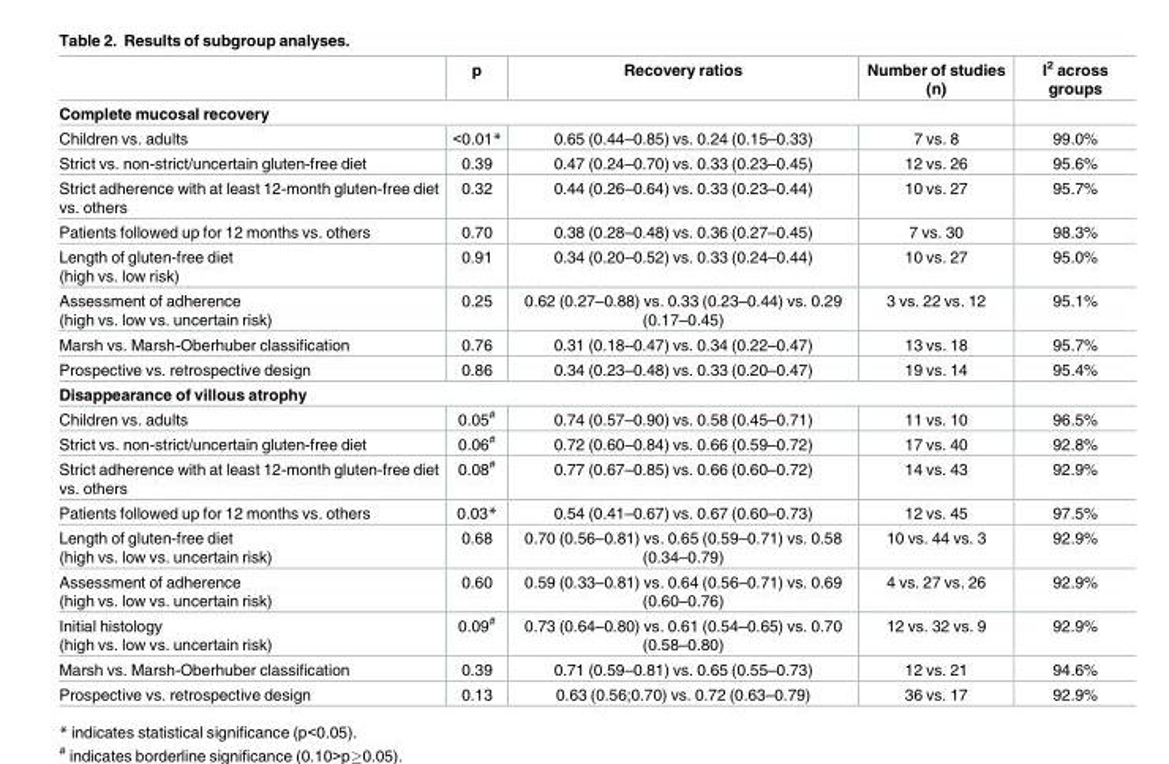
<table><thead><tr><td></td><td>p</td><td>Recovery ratios</td><td>Number of studies (n)</td><td rowspan="2">I<sup>2</sup> across groups</td></tr><tr><td colspan="4">Complete mucosal recovery</td></tr></thead><tbody><tr><td>Children vs. adults</td><td>&lt;0.01*</td><td>0.65 (0.44–0.85) vs. 0.24 (0.15–0.33)</td><td>7 vs. 8</td><td>99.0%</td></tr><tr><td>Strict vs. non-strict/uncertain gluten-free diet</td><td>0.39</td><td>0.47 (0.24–0.70) vs. 0.33 (0.23–0.45)</td><td>12 vs. 26</td><td>95.6%</td></tr><tr><td>Strict adherence with at least 12-month gluten-free diet vs. others</td><td>0.32</td><td>0.44 (0.26–0.64) vs. 0.33 (0.23–0.44)</td><td>10 vs. 27</td><td>95.7%</td></tr><tr><td>Patients followed up for 12 months vs. others</td><td>0.70</td><td>0.38 (0.28–0.48) vs. 0.36 (0.27–0.45)</td><td>7 vs. 30</td><td>98.3%</td></tr><tr><td>Length of gluten-free diet (high vs. low risk)</td><td>0.91</td><td>0.34 (0.20–0.52) vs. 0.33 (0.24–0.44)</td><td>10 vs. 27</td><td>95.0%</td></tr><tr><td>Assessment of adherence (high vs. low vs. uncertain risk)</td><td>0.25</td><td>0.62 (0.27–0.88) vs. 0.33 (0.23–0.44) vs. 0.29 (0.17–0.45)</td><td>3 vs. 22 vs. 12</td><td>95.1%</td></tr><tr><td>Marsh vs. Marsh-Oberhuber classification</td><td>0.76</td><td>0.31 (0.18–0.47) vs. 0.34 (0.22–0.47)</td><td>13 vs. 18</td><td>95.7%</td></tr><tr><td>Prospective vs. retrospective design</td><td>0.86</td><td>0.34 (0.23–0.48) vs. 0.33 (0.20–0.47)</td><td>19 vs. 14</td><td>95.4%</td></tr><tr><td colspan="5">Disappearance of villous atrophy</td></tr><tr><td>Children vs. adults</td><td>0.05<sup>#</sup></td><td>0.74 (0.57–0.90) vs. 0.58 (0.45–0.71)</td><td>11 vs. 10</td><td>96.5%</td></tr><tr><td>Strict vs. non-strict/uncertain gluten-free diet</td><td>0.06<sup>#</sup></td><td>0.72 (0.60–0.84) vs. 0.66 (0.59–0.72)</td><td>17 vs. 40</td><td>92.8%</td></tr><tr><td>Strict adherence with at least 12-month gluten-free diet vs. others</td><td>0.08<sup>#</sup></td><td>0.77 (0.67–0.85) vs. 0.66 (0.60–0.72)</td><td>14 vs. 43</td><td>92.9%</td></tr><tr><td>Patients followed up for 12 months vs. others</td><td>0.03*</td><td>0.54 (0.41–0.67) vs. 0.67 (0.60–0.73)</td><td>12 vs. 45</td><td>97.5%</td></tr><tr><td>Length of gluten-free diet (high vs. low vs. uncertain risk)</td><td>0.68</td><td>0.70 (0.56–0.81) vs. 0.65 (0.59–0.71) vs. 0.58 (0.34–0.79)</td><td>10 vs. 44 vs. 3</td><td>92.9%</td></tr><tr><td>Assessment of adherence (high vs. low vs. uncertain risk)</td><td>0.60</td><td>0.59 (0.33–0.81) vs. 0.64 (0.56–0.71) vs. 0.69 (0.60–0.76)</td><td>4 vs. 27 vs. 26</td><td>92.9%</td></tr><tr><td>Initial histology (high vs. low vs. uncertain risk)</td><td>0.09<sup>#</sup></td><td>0.73 (0.64–0.80) vs. 0.61 (0.54–0.65) vs. 0.70 (0.58–0.80)</td><td>12 vs. 32 vs. 9</td><td>92.9%</td></tr><tr><td>Marsh vs. Marsh-Oberhuber classification</td><td>0.39</td><td>0.71 (0.59–0.81) vs. 0.65 (0.55–0.73)</td><td>12 vs. 21</td><td>94.6%</td></tr><tr><td>Prospective vs. retrospective design</td><td>0.13</td><td>0.63 (0.56;0.70) vs. 0.72 (0.63–0.79)</td><td>36 vs. 17</td><td>92.9%</td></tr></tbody></table>